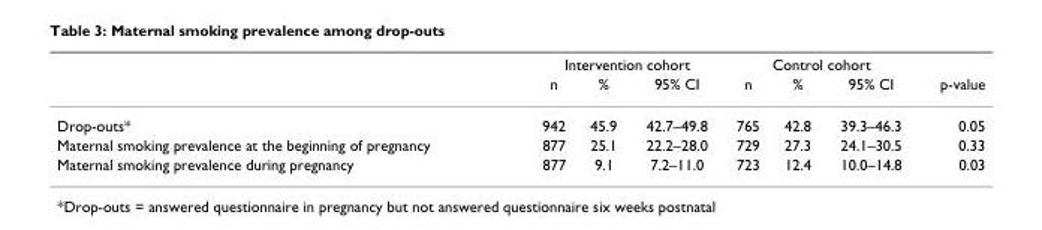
<table><thead><tr><td rowspan="2"></td><td colspan="3">Intervention cohort</td><td colspan="3">Control cohort</td><td rowspan="2">p-value</td></tr><tr><td>n</td><td>%</td><td>95% CI</td><td>n</td><td>%</td><td>95% CI</td></tr></thead><tbody><tr><td>Drop-outs*</td><td>942</td><td>45.9</td><td>42.7–49.8</td><td>765</td><td>42.8</td><td>39.3–46.3</td><td>0.05</td></tr><tr><td>Maternal smoking prevalence at the beginning of pregnancy</td><td>877</td><td>25.1</td><td>22.2–28.0</td><td>729</td><td>27.3</td><td>24.1–30.5</td><td>0.33</td></tr><tr><td>Maternal smoking prevalence during pregnancy</td><td>877</td><td>9.1</td><td>7.2–11.0</td><td>723</td><td>12.4</td><td>10.0–14.8</td><td>0.03</td></tr></tbody></table>